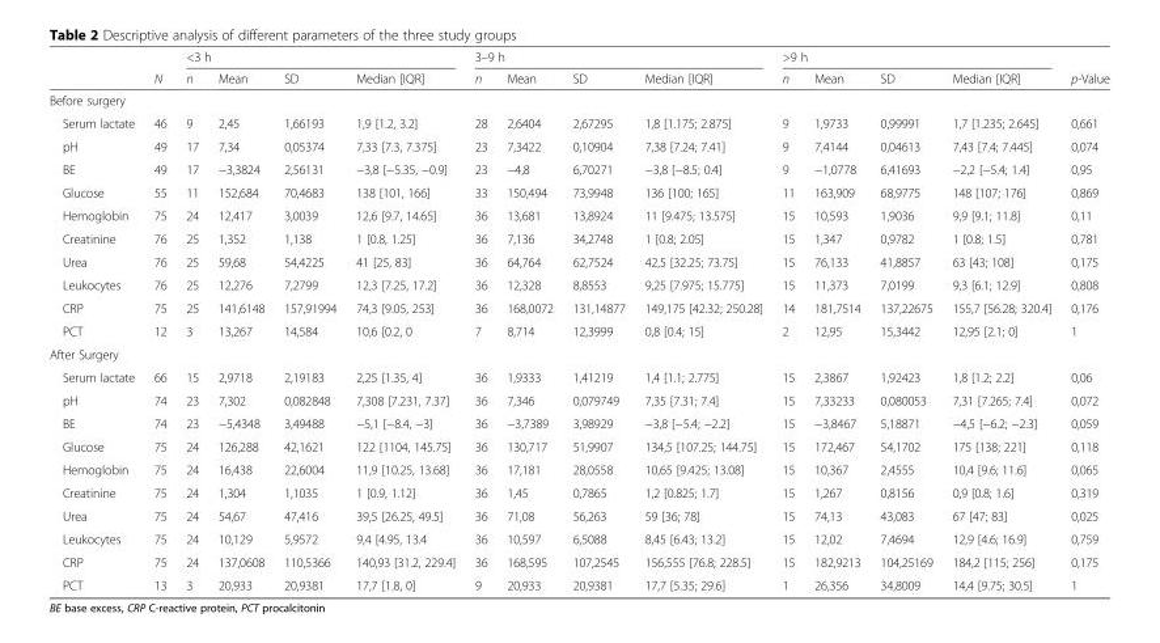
<table><thead><tr><td rowspan="2"></td><td rowspan="2">N</td><td colspan="4">&lt;3 h</td><td colspan="4">3–9 h</td><td colspan="4">&gt;9 h</td><td rowspan="2">p-Value</td></tr><tr><td>n</td><td>Mean</td><td>SD</td><td>Median [IQR]</td><td>n</td><td>Mean</td><td>SD</td><td>Median [IQR]</td><td>n</td><td>Mean</td><td>SD</td><td>Median [IQR]</td></tr></thead><tbody><tr><td colspan="15">Before surgery</td></tr><tr><td>Serum lactate</td><td>46</td><td>9</td><td>2,45</td><td>1,66193</td><td>1,9 [1.2, 3.2]</td><td>28</td><td>2,6404</td><td>2,67295</td><td>1,8 [1.175; 2.875]</td><td>9</td><td>1,9733</td><td>0,99991</td><td>1,7 [1.235; 2.645]</td><td>0,661</td></tr><tr><td>pH</td><td>49</td><td>17</td><td>7,34</td><td>0,05374</td><td>7,33 [7.3, 7.375]</td><td>23</td><td>7,3422</td><td>0,10904</td><td>7,38 [7.24; 7.41]</td><td>9</td><td>7,4144</td><td>0,04613</td><td>7,43 [7.4; 7.445]</td><td>0,074</td></tr><tr><td>BE</td><td>49</td><td>17</td><td>−3,3824</td><td>2,56131</td><td>−3,8 [−5.35, −0.9]</td><td>23</td><td>−4,8</td><td>6,70271</td><td>−3,8 [−8.5; 0.4]</td><td>9</td><td>−1,0778</td><td>6,41693</td><td>−2,2 [−5.4; 1.4]</td><td>0,95</td></tr><tr><td>Glucose</td><td>55</td><td>11</td><td>152,684</td><td>70,4683</td><td>138 [101, 166]</td><td>33</td><td>150,494</td><td>73,9948</td><td>136 [100; 165]</td><td>11</td><td>163,909</td><td>68,9775</td><td>148 [107; 176]</td><td>0,869</td></tr><tr><td>Hemoglobin</td><td>75</td><td>24</td><td>12,417</td><td>3,0039</td><td>12,6 [9.7, 14.65]</td><td>36</td><td>13,681</td><td>13,8924</td><td>11 [9.475; 13.575]</td><td>15</td><td>10,593</td><td>1,9036</td><td>9,9 [9.1; 11.8]</td><td>0,11</td></tr><tr><td>Creatinine</td><td>76</td><td>25</td><td>1,352</td><td>1,138</td><td>1 [0.8, 1.25]</td><td>36</td><td>7,136</td><td>34,2748</td><td>1 [0.8; 2.05]</td><td>15</td><td>1,347</td><td>0,9782</td><td>1 [0.8; 1.5]</td><td>0,781</td></tr><tr><td>Urea</td><td>76</td><td>25</td><td>59,68</td><td>54,4225</td><td>41 [25, 83]</td><td>36</td><td>64,764</td><td>62,7524</td><td>42,5 [32.25; 73.75]</td><td>15</td><td>76,133</td><td>41,8857</td><td>63 [43; 108]</td><td>0,175</td></tr><tr><td>Leukocytes</td><td>76</td><td>25</td><td>12,276</td><td>7,2799</td><td>12,3 [7.25, 17.2]</td><td>36</td><td>12,328</td><td>8,8553</td><td>9,25 [7.975; 15.775]</td><td>15</td><td>11,373</td><td>7,0199</td><td>9,3 [6.1; 12.9]</td><td>0,808</td></tr><tr><td>CRP</td><td>75</td><td>25</td><td>141,6148</td><td>157,91994</td><td>74,3 [9.05, 253]</td><td>36</td><td>168,0072</td><td>131,14877</td><td>149,175 [42.32; 250.28]</td><td>14</td><td>181,7514</td><td>137,22675</td><td>155,7 [56.28; 320.4]</td><td>0,176</td></tr><tr><td>PCT</td><td>12</td><td>3</td><td>13,267</td><td>14,584</td><td>10,6 [0.2, 0</td><td>7</td><td>8,714</td><td>12,3999</td><td>0,8 [0.4; 15]</td><td>2</td><td>12,95</td><td>15,3442</td><td>12,95 [2.1; 0]</td><td>1</td></tr><tr><td colspan="15">After Surgery</td></tr><tr><td>Serum lactate</td><td>66</td><td>15</td><td>2,9718</td><td>2,19183</td><td>2,25 [1.35, 4]</td><td>36</td><td>1,9333</td><td>1,41219</td><td>1,4 [1.1; 2.775]</td><td>15</td><td>2,3867</td><td>1,92423</td><td>1,8 [1.2; 2.2]</td><td>0,06</td></tr><tr><td>pH</td><td>74</td><td>23</td><td>7,302</td><td>0,082848</td><td>7,308 [7.231, 7.37]</td><td>36</td><td>7,346</td><td>0,079749</td><td>7,35 [7.31; 7.4]</td><td>15</td><td>7,33233</td><td>0,080053</td><td>7,31 [7.265; 7.4]</td><td>0,072</td></tr><tr><td>BE</td><td>74</td><td>23</td><td>−5,4348</td><td>3,49488</td><td>−5,1 [−8.4, −3]</td><td>36</td><td>−3,7389</td><td>3,98929</td><td>−3,8 [−5.4; −2.2]</td><td>15</td><td>−3,8467</td><td>5,18871</td><td>−4,5 [−6.2; −2.3]</td><td>0,059</td></tr><tr><td>Glucose</td><td>75</td><td>24</td><td>126,288</td><td>42,1621</td><td>122 [1104, 145.75]</td><td>36</td><td>130,717</td><td>51,9907</td><td>134,5 [107.25; 144.75]</td><td>15</td><td>172,467</td><td>54,1702</td><td>175 [138; 221]</td><td>0,118</td></tr><tr><td>Hemoglobin</td><td>75</td><td>24</td><td>16,438</td><td>22,6004</td><td>11,9 [10.25, 13.68]</td><td>36</td><td>17,181</td><td>28,0558</td><td>10,65 [9.425; 13.08]</td><td>15</td><td>10,367</td><td>2,4555</td><td>10,4 [9.6; 11.6]</td><td>0,065</td></tr><tr><td>Creatinine</td><td>75</td><td>24</td><td>1,304</td><td>1,1035</td><td>1 [0.9, 1.12]</td><td>36</td><td>1,45</td><td>0,7865</td><td>1,2 [0.825; 1.7]</td><td>15</td><td>1,267</td><td>0,8156</td><td>0,9 [0.8; 1.6]</td><td>0,319</td></tr><tr><td>Urea</td><td>75</td><td>24</td><td>54,67</td><td>47,416</td><td>39,5 [26.25, 49.5]</td><td>36</td><td>71,08</td><td>56,263</td><td>59 [36; 78]</td><td>15</td><td>74,13</td><td>43,083</td><td>67 [47; 83]</td><td>0,025</td></tr><tr><td>Leukocytes</td><td>75</td><td>24</td><td>10,129</td><td>5,9572</td><td>9,4 [4.95, 13.4</td><td>36</td><td>10,597</td><td>6,5088</td><td>8,45 [6.43; 13.2]</td><td>15</td><td>12,02</td><td>7,4694</td><td>12,9 [4.6; 16.9]</td><td>0,759</td></tr><tr><td>CRP</td><td>75</td><td>24</td><td>137,0608</td><td>110,5366</td><td>140,93 [31.2, 229.4]</td><td>36</td><td>168,595</td><td>107,2545</td><td>156,555 [76.8; 228.5]</td><td>15</td><td>182,9213</td><td>104,25169</td><td>184,2 [115; 256]</td><td>0,175</td></tr><tr><td>PCT</td><td>13</td><td>3</td><td>20,933</td><td>20,9381</td><td>17,7 [1.8, 0]</td><td>9</td><td>20,933</td><td>20,9381</td><td>17,7 [5.35; 29.6]</td><td>1</td><td>26,356</td><td>34,8009</td><td>14,4 [9.75; 30.5]</td><td>1</td></tr></tbody></table>